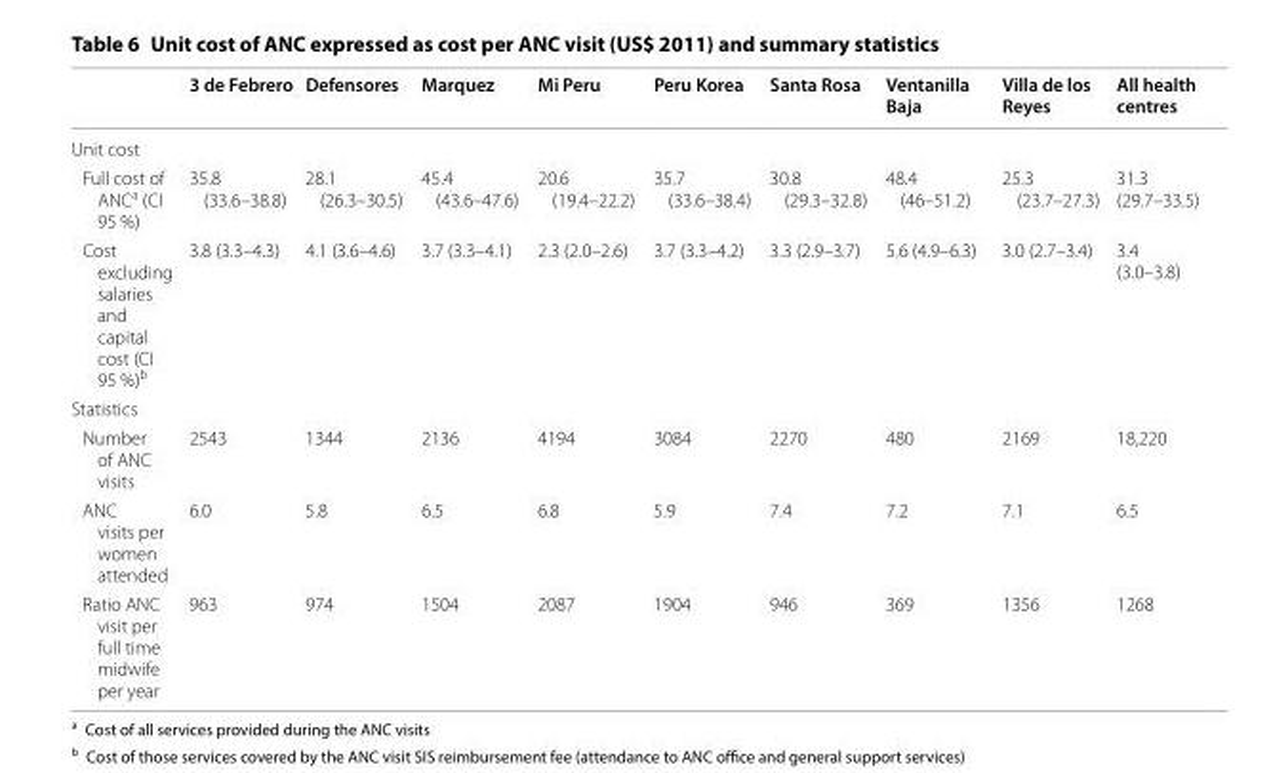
<table><thead><tr><td></td><td>3 de Febrero</td><td>Defensores</td><td>Marquez</td><td>Mi Peru</td><td>Peru Korea</td><td>Santa Rosa</td><td>Ventanilla Baja</td><td>Villa de los Reyes</td><td>All health centres</td></tr></thead><tbody><tr><td colspan="10">Unit cost</td></tr><tr><td>Full cost of ANC<sup>a</sup> (CI 95 %)</td><td>35.8 (33.6–38.8)</td><td>28.1 (26.3–30.5)</td><td>45.4 (43.6–47.6)</td><td>20.6 (19.4–22.2)</td><td>35.7 (33.6–38.4)</td><td>30.8 (29.3–32.8)</td><td>48.4 (46–51.2)</td><td>25.3 (23.7–27.3)</td><td>31.3 (29.7–33.5)</td></tr><tr><td>Cost excluding salaries and capital cost (CI 95 %)<sup>b</sup></td><td>3.8 (3.3–4.3)</td><td>4.1 (3.6–4.6)</td><td>3.7 (3.3–4.1)</td><td>2.3 (2.0–2.6)</td><td>3.7 (3.3–4.2)</td><td>3.3 (2.9–3.7)</td><td>5.6 (4.9–6.3)</td><td>3.0 (2.7–3.4)</td><td>3.4 (3.0–3.8)</td></tr><tr><td colspan="10">Statistics</td></tr><tr><td>Number of ANC visits</td><td>2543</td><td>1344</td><td>2136</td><td>4194</td><td>3084</td><td>2270</td><td>480</td><td>2169</td><td>18,220</td></tr><tr><td>ANC visits per women attended</td><td>6.0</td><td>5.8</td><td>6.5</td><td>6.8</td><td>5.9</td><td>7.4</td><td>7.2</td><td>7.1</td><td>6.5</td></tr><tr><td>Ratio ANC visit per full time midwife per year</td><td>963</td><td>974</td><td>1504</td><td>2087</td><td>1904</td><td>946</td><td>369</td><td>1356</td><td>1268</td></tr></tbody></table>